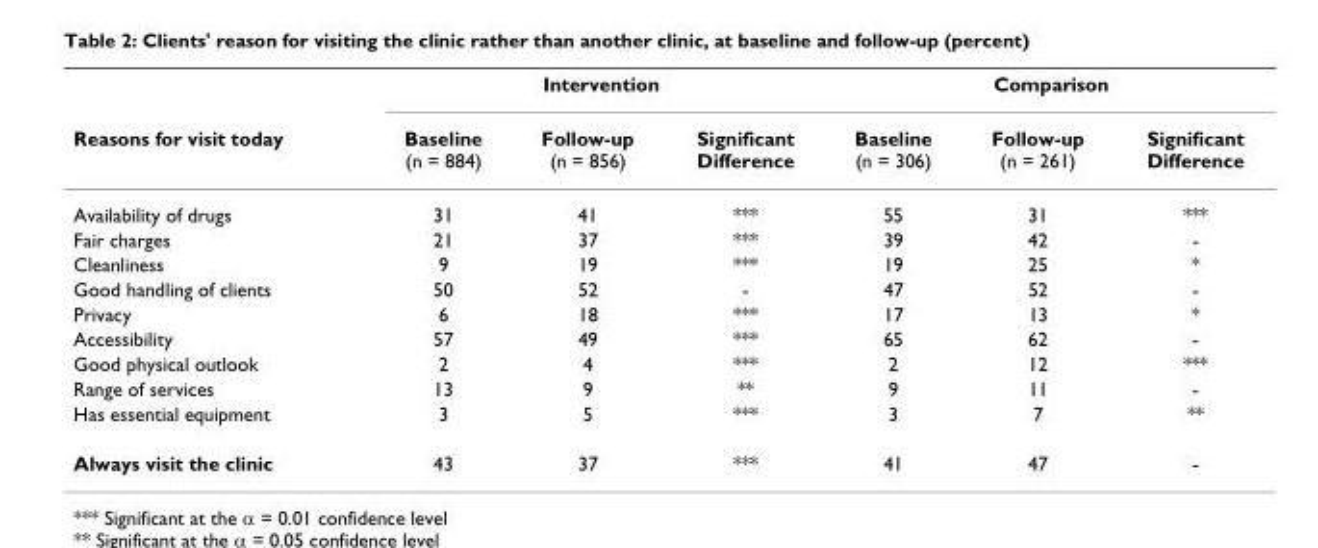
<table><thead><tr><td rowspan="2">Reasons for visit today</td><td colspan="3">Intervention</td><td colspan="3">Comparison</td></tr><tr><td>Baseline (n = 884)</td><td>Follow-up (n = 856)</td><td>Significant Difference</td><td>Baseline (n = 306)</td><td>Follow-up (n = 261)</td><td>Significant Difference</td></tr></thead><tbody><tr><td>Availability of drugs</td><td>31</td><td>41</td><td>***</td><td>55</td><td>31</td><td>***</td></tr><tr><td>Fair charges</td><td>21</td><td>37</td><td>***</td><td>39</td><td>42</td><td>-</td></tr><tr><td>Cleanliness</td><td>9</td><td>19</td><td>***</td><td>19</td><td>25</td><td>*</td></tr><tr><td>Good handling of clients</td><td>50</td><td>52</td><td>-</td><td>47</td><td>52</td><td>-</td></tr><tr><td>Privacy</td><td>6</td><td>18</td><td>***</td><td>17</td><td>13</td><td>*</td></tr><tr><td>Accessibility</td><td>57</td><td>49</td><td>***</td><td>65</td><td>62</td><td>-</td></tr><tr><td>Good physical outlook</td><td>2</td><td>4</td><td>***</td><td>2</td><td>12</td><td>***</td></tr><tr><td>Range of services</td><td>13</td><td>9</td><td>**</td><td>9</td><td>11</td><td>-</td></tr><tr><td>Has essential equipment</td><td>3</td><td>5</td><td>***</td><td>3</td><td>7</td><td>**</td></tr><tr><td>Always visit the clinic</td><td>43</td><td>37</td><td>***</td><td>41</td><td>47</td><td>-</td></tr></tbody></table>